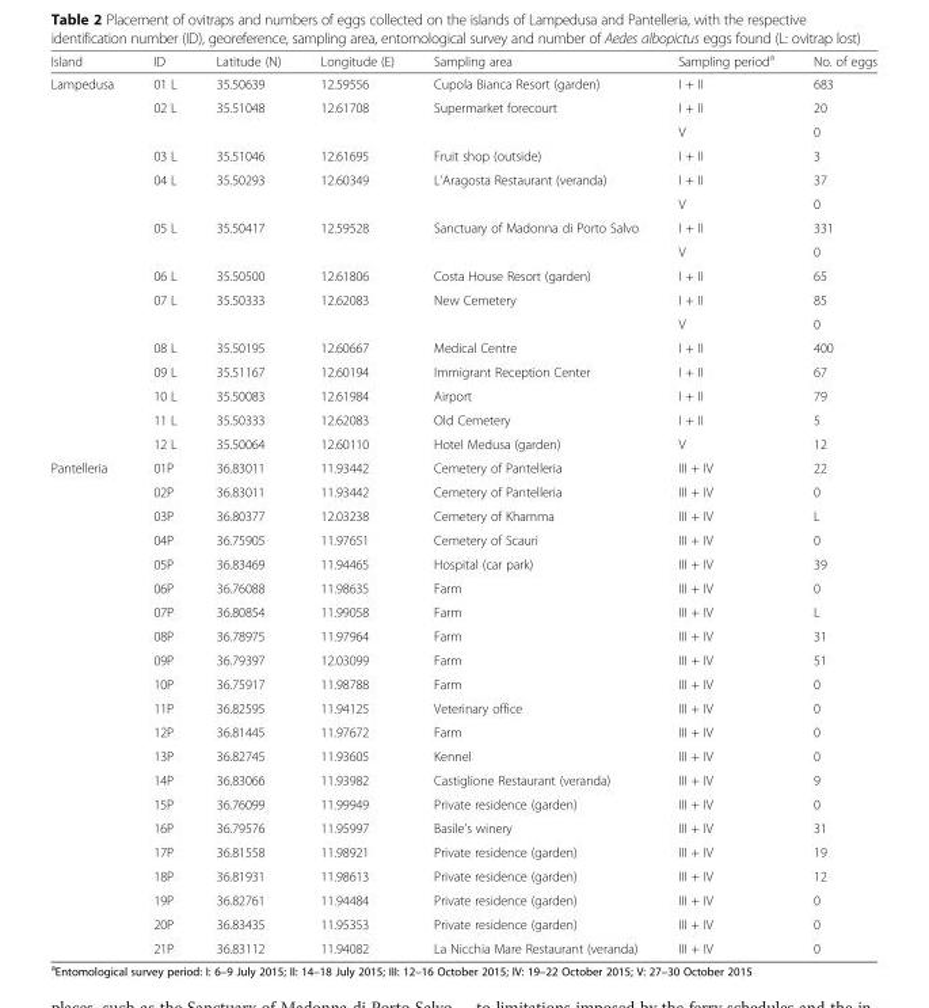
<table><thead><tr><td>Island</td><td>ID</td><td>Latitude (N)</td><td>Longitude (E)</td><td>Sampling area</td><td>Sampling period<sup>a</sup></td><td>No. of eggs</td></tr></thead><tbody><tr><td rowspan="16">Lampedusa</td><td>01 L</td><td>35.50639</td><td>12.59556</td><td>Cupola Bianca Resort (garden)</td><td>I + II</td><td>683</td></tr><tr><td rowspan="2">02 L</td><td rowspan="2">35.51048</td><td rowspan="2">12.61708</td><td rowspan="2">Supermarket forecourt</td><td>I + II</td><td>20</td></tr><tr><td>V</td><td>0</td></tr><tr><td>03 L</td><td>35.51046</td><td>12.61695</td><td>Fruit shop (outside)</td><td>I + II</td><td>3</td></tr><tr><td rowspan="2">04 L</td><td rowspan="2">35.50293</td><td rowspan="2">12.60349</td><td rowspan="2">L’Aragosta Restaurant (veranda)</td><td>I + II</td><td>37</td></tr><tr><td>V</td><td>0</td></tr><tr><td rowspan="2">05 L</td><td rowspan="2">35.50417</td><td rowspan="2">12.59528</td><td rowspan="2">Sanctuary of Madonna di Porto Salvo</td><td>I + II</td><td>331</td></tr><tr><td>V</td><td>0</td></tr><tr><td>06 L</td><td>35.50500</td><td>12.61806</td><td>Costa House Resort (garden)</td><td>I + II</td><td>65</td></tr><tr><td rowspan="2">07 L</td><td rowspan="2">35.50333</td><td rowspan="2">12.62083</td><td rowspan="2">New Cemetery</td><td>I + II</td><td>85</td></tr><tr><td>V</td><td>0</td></tr><tr><td>08 L</td><td>35.50195</td><td>12.60667</td><td>Medical Centre</td><td>I + II</td><td>400</td></tr><tr><td>09 L</td><td>35.51167</td><td>12.60194</td><td>Immigrant Reception Center</td><td>I + II</td><td>67</td></tr><tr><td>10 L</td><td>35.50083</td><td>12.61984</td><td>Airport</td><td>I + II</td><td>79</td></tr><tr><td>11 L</td><td>35.50333</td><td>12.62083</td><td>Old Cemetery</td><td>I + II</td><td>5</td></tr><tr><td>12 L</td><td>35.50064</td><td>12.60110</td><td>Hotel Medusa (garden)</td><td>V</td><td>12</td></tr><tr><td rowspan="21">Pantelleria</td><td>01P</td><td>36.83011</td><td>11.93442</td><td>Cemetery of Pantelleria</td><td>III + IV</td><td>22</td></tr><tr><td>02P</td><td>36.83011</td><td>11.93442</td><td>Cemetery of Pantelleria</td><td>III + IV</td><td>0</td></tr><tr><td>03P</td><td>36.80377</td><td>12.03238</td><td>Cemetery of Khamma</td><td>III + IV</td><td>L</td></tr><tr><td>04P</td><td>36.75905</td><td>11.97651</td><td>Cemetery of Scauri</td><td>III + IV</td><td>0</td></tr><tr><td>05P</td><td>36.83469</td><td>11.94465</td><td>Hospital (car park)</td><td>III + IV</td><td>39</td></tr><tr><td>06P</td><td>36.76088</td><td>11.98635</td><td>Farm</td><td>III + IV</td><td>0</td></tr><tr><td>07P</td><td>36.80854</td><td>11.99058</td><td>Farm</td><td>III + IV</td><td>L</td></tr><tr><td>08P</td><td>36.78975</td><td>11.97964</td><td>Farm</td><td>III + IV</td><td>31</td></tr><tr><td>09P</td><td>36.79397</td><td>12.03099</td><td>Farm</td><td>III + IV</td><td>51</td></tr><tr><td>10P</td><td>36.75917</td><td>11.98788</td><td>Farm</td><td>III + IV</td><td>0</td></tr><tr><td>11P</td><td>36.82595</td><td>11.94125</td><td>Veterinary office</td><td>III + IV</td><td>0</td></tr><tr><td>12P</td><td>36.81445</td><td>11.97672</td><td>Farm</td><td>III + IV</td><td>0</td></tr><tr><td>13P</td><td>36.82745</td><td>11.93605</td><td>Kennel</td><td>III + IV</td><td>0</td></tr><tr><td>14P</td><td>36.83066</td><td>11.93982</td><td>Castiglione Restaurant (veranda)</td><td>III + IV</td><td>9</td></tr><tr><td>15P</td><td>36.76099</td><td>11.99949</td><td>Private residence (garden)</td><td>III + IV</td><td>0</td></tr><tr><td>16P</td><td>36.79576</td><td>11.95997</td><td>Basile’s winery</td><td>III + IV</td><td>31</td></tr><tr><td>17P</td><td>36.81558</td><td>11.98921</td><td>Private residence (garden)</td><td>III + IV</td><td>19</td></tr><tr><td>18P</td><td>36.81931</td><td>11.98613</td><td>Private residence (garden)</td><td>III + IV</td><td>12</td></tr><tr><td>19P</td><td>36.82761</td><td>11.94484</td><td>Private residence (garden)</td><td>III + IV</td><td>0</td></tr><tr><td>20P</td><td>36.83435</td><td>11.95353</td><td>Private residence (garden)</td><td>III + IV</td><td>0</td></tr><tr><td>21P</td><td>36.83112</td><td>11.94082</td><td>La Nicchia Mare Restaurant (veranda)</td><td>III + IV</td><td>0</td></tr></tbody></table>